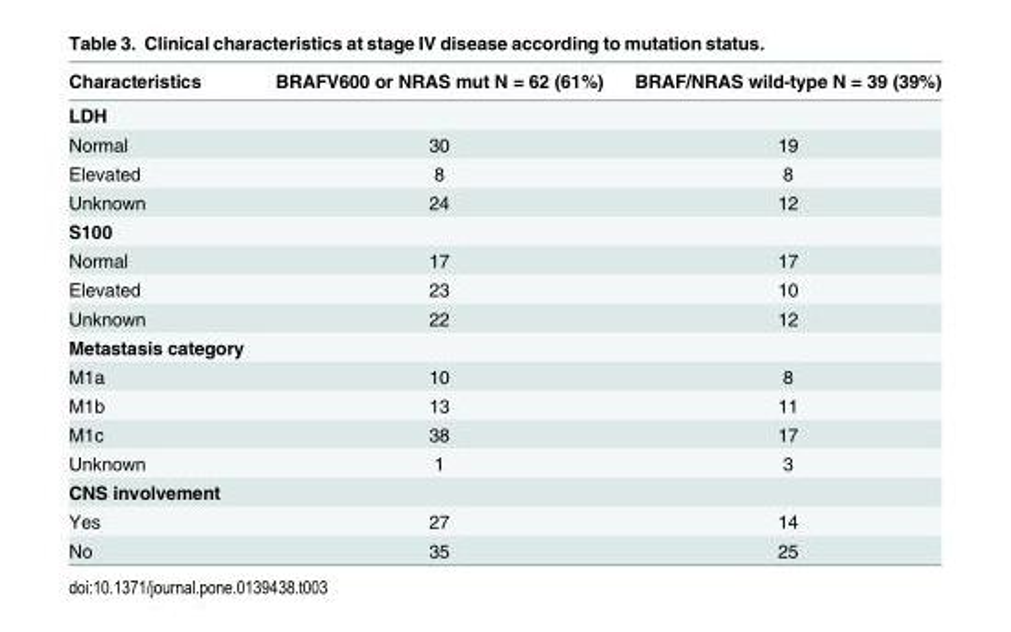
<table><thead><tr><td>Characteristics</td><td>BRAFV600 or NRAS mut N = 62 (61%)</td><td>BRAF/NRAS wild-type N = 39 (39%)</td></tr></thead><tbody><tr><td colspan="3">LDH</td></tr><tr><td>Normal</td><td>30</td><td>19</td></tr><tr><td>Elevated</td><td>8</td><td>8</td></tr><tr><td>Unknown</td><td>24</td><td>12</td></tr><tr><td colspan="3">S100</td></tr><tr><td>Normal</td><td>17</td><td>17</td></tr><tr><td>Elevated</td><td>23</td><td>10</td></tr><tr><td>Unknown</td><td>22</td><td>12</td></tr><tr><td colspan="3">Metastasis category</td></tr><tr><td>M1a</td><td>10</td><td>8</td></tr><tr><td>M1b</td><td>13</td><td>11</td></tr><tr><td>M1c</td><td>38</td><td>17</td></tr><tr><td>Unknown</td><td>1</td><td>3</td></tr><tr><td colspan="3">CNS involvement</td></tr><tr><td>Yes</td><td>27</td><td>14</td></tr><tr><td>No</td><td>35</td><td>25</td></tr></tbody></table>